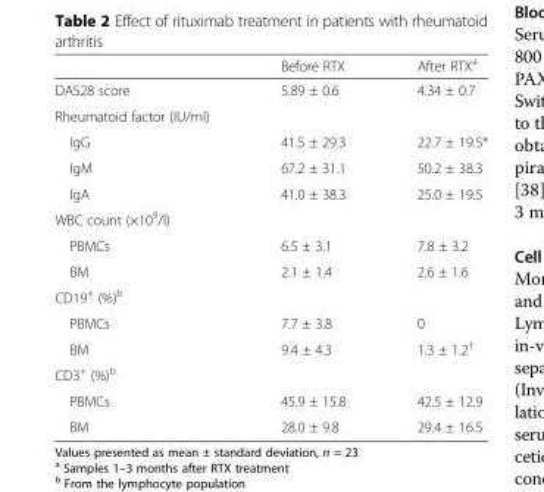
<table><thead><tr><td></td><td>Before RTX</td><td>After RTX<sup>a</sup></td></tr></thead><tbody><tr><td>DAS28 score</td><td>5.89 ± 0.6</td><td>4.34 ± 0.7</td></tr><tr><td colspan="3">Rheumatoid factor (IU/ml)</td></tr><tr><td>IgG</td><td>41.5 ± 29.3</td><td>22.7 ± 19.5*</td></tr><tr><td>IgM</td><td>67.2 ± 31.1</td><td>50.2 ± 38.3</td></tr><tr><td>IgA</td><td>41.0 ± 38.3</td><td>25.0 ± 19.5</td></tr><tr><td colspan="3">WBC count (×10<sup>9</sup>/l)</td></tr><tr><td>PBMCs</td><td>6.5 ± 3.1</td><td>7.8 ± 3.2</td></tr><tr><td>BM</td><td>2.1 ± 1.4</td><td>2.6 ± 1.6</td></tr><tr><td colspan="3">CD19<sup>+</sup> (%)<sup>b</sup></td></tr><tr><td>PBMCs</td><td>7.7 ± 3.8</td><td>0</td></tr><tr><td>BM</td><td>9.4 ± 4.3</td><td>1.3 ± 1.2<sup>†</sup></td></tr><tr><td colspan="3">CD3<sup>+</sup> (%)<sup>b</sup></td></tr><tr><td>PBMCs</td><td>45.9 ± 15.8</td><td>42.5 ± 12.9</td></tr><tr><td>BM</td><td>28.0 ± 9.8</td><td>29.4 ± 16.5</td></tr></tbody></table>